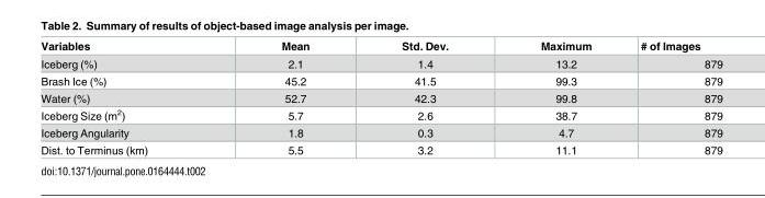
<table><thead><tr><td>Variables</td><td>Mean</td><td>Std. Dev.</td><td>Maximum</td><td># of Images</td></tr></thead><tbody><tr><td>Iceberg (%)</td><td>2.1</td><td>1.4</td><td>13.2</td><td>879</td></tr><tr><td>Brash Ice (%)</td><td>45.2</td><td>41.5</td><td>99.3</td><td>879</td></tr><tr><td>Water (%)</td><td>52.7</td><td>42.3</td><td>99.8</td><td>879</td></tr><tr><td>Iceberg Size (m<sup>2</sup>)</td><td>5.7</td><td>2.6</td><td>38.7</td><td>879</td></tr><tr><td>Iceberg Angularity</td><td>1.8</td><td>0.3</td><td>4.7</td><td>879</td></tr><tr><td>Dist. to Terminus (km)</td><td>5.5</td><td>3.2</td><td>11.1</td><td>879</td></tr></tbody></table>